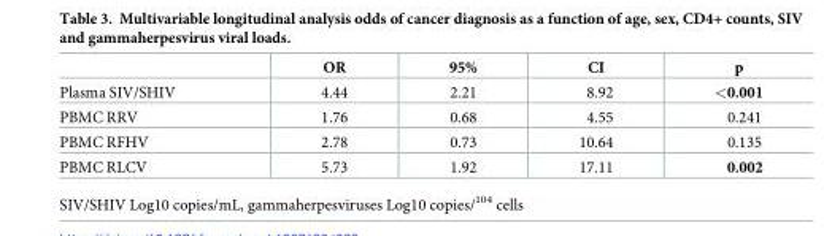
<table><thead><tr><td></td><td>OR</td><td>95%</td><td>CI</td><td>p</td></tr></thead><tbody><tr><td>Plasma SIV/SHIV</td><td>4.44</td><td>2.21</td><td>8.92</td><td>&lt;0.001</td></tr><tr><td>PBMC RRV</td><td>1.76</td><td>0.68</td><td>4.55</td><td>0.241</td></tr><tr><td>PBMC RFHV</td><td>2.78</td><td>0.73</td><td>10.64</td><td>0.135</td></tr><tr><td>PBMC RLCV</td><td>5.73</td><td>1.92</td><td>17.11</td><td>0.002</td></tr></tbody></table>